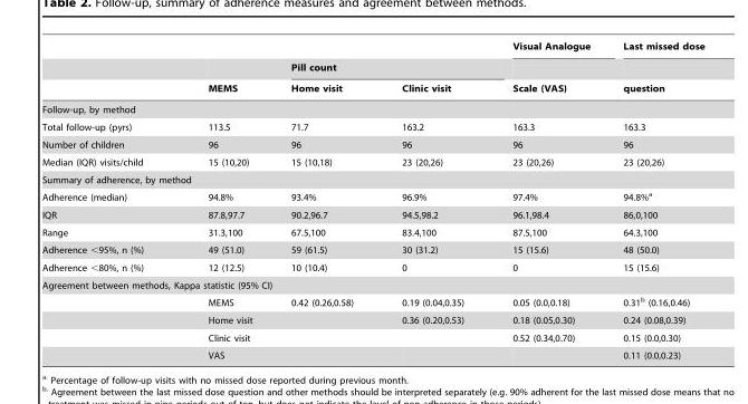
<table><thead><tr><td rowspan="3"></td><td rowspan="3">MEMS</td><td></td><td></td><td rowspan="3">Visual Analogue Scale (VAS)</td><td rowspan="3">Last missed dose question</td></tr><tr><td colspan="2">Pill count</td></tr><tr><td>Home visit</td><td>Clinic visit</td></tr></thead><tbody><tr><td colspan="6">Follow-up, by method</td></tr><tr><td>Total follow-up (pyrs)</td><td>113.5</td><td>71.7</td><td>163.2</td><td>163.3</td><td>163.3</td></tr><tr><td>Number of children</td><td>96</td><td>96</td><td>96</td><td>96</td><td>96</td></tr><tr><td>Median (IQR) visits/child</td><td>15 (10,20)</td><td>15 (10,18)</td><td>23 (20,26)</td><td>23 (20,26)</td><td>23 (20,26)</td></tr><tr><td colspan="6">Summary of adherence, by method</td></tr><tr><td>Adherence (median)</td><td>94.8%</td><td>93.4%</td><td>96.9%</td><td>97.4%</td><td>94.8%<sup>a</sup></td></tr><tr><td>IQR</td><td>87.8,97.7</td><td>90.2,96.7</td><td>94.5,98.2</td><td>96.1,98.4</td><td>86,0,100</td></tr><tr><td>Range</td><td>31.3,100</td><td>67.5,100</td><td>83.4,100</td><td>87.5,100</td><td>64.3,100</td></tr><tr><td>Adherence &lt;95%, n (%)</td><td>49 (51.0)</td><td>59 (61.5)</td><td>30 (31.2)</td><td>15 (15.6)</td><td>48 (50.0)</td></tr><tr><td>Adherence &lt;80%, n (%)</td><td>12 (12.5)</td><td>10 (10.4)</td><td>0</td><td>0</td><td>15 (15.6)</td></tr><tr><td colspan="6">Agreement between methods, Kappa statistic (95% CI)</td></tr><tr><td></td><td>MEMS</td><td>0.42 (0.26,0.58)</td><td>0.19 (0.04,0.35)</td><td>0.05 (0.0,0.18)</td><td>0.31<sup>b</sup> (0.16,0.46)</td></tr><tr><td></td><td>Home visit</td><td></td><td>0.36 (0.20,0.53)</td><td>0.18 (0.05,0.30)</td><td>0.24 (0.08,0.39)</td></tr><tr><td></td><td>Clinic visit</td><td></td><td></td><td>0.52 (0.34,0.70)</td><td>0.15 (0.0,0.30)</td></tr><tr><td></td><td>VAS</td><td></td><td></td><td></td><td>0.11 (0.0,0.23)</td></tr></tbody></table>